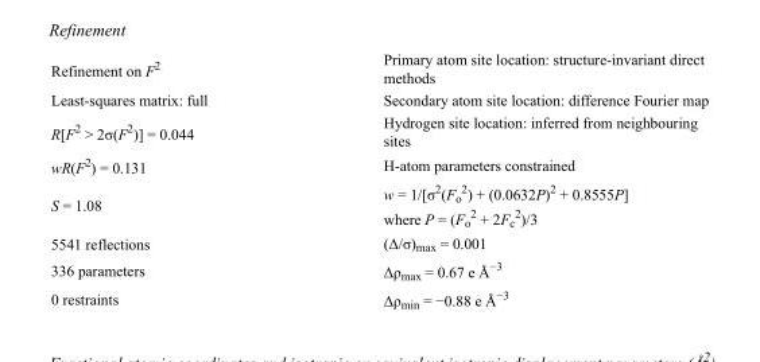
<table><tbody><tr><td>Refinement on F<sup>2</sup></td><td>Primary atom site location: structure-invariant direct methods</td></tr><tr><td>Least-squares matrix: full</td><td>Secondary atom site location: difference Fourier map</td></tr><tr><td>R[F<sup>2</sup> &gt; 2σ(F<sup>2</sup>)] = 0.044</td><td>Hydrogen site location: inferred from neighbouring sites</td></tr><tr><td>wR(F<sup>2</sup>) = 0.131</td><td>H-atom parameters constrained</td></tr><tr><td>S = 1.08</td><td>w = 1/[σ<sup>2</sup>(F<sub>o</sub> <sup>2</sup>) + (0.0632P)<sup>2</sup> + 0.8555P] where P = (F<sub>o</sub> <sup>2</sup> + 2F<sub>c</sub> <sup>2</sup>)/3</td></tr><tr><td>5541 reflections</td><td>(Δ/σ)<sub>max</sub> = 0.001</td></tr><tr><td>336 parameters</td><td>Δρ<sub>max</sub> = 0.67 e Å<sup>−3</sup></td></tr><tr><td>0 restraints</td><td>Δρ<sub>min</sub> = −0.88 e Å<sup>−3</sup></td></tr></tbody></table>